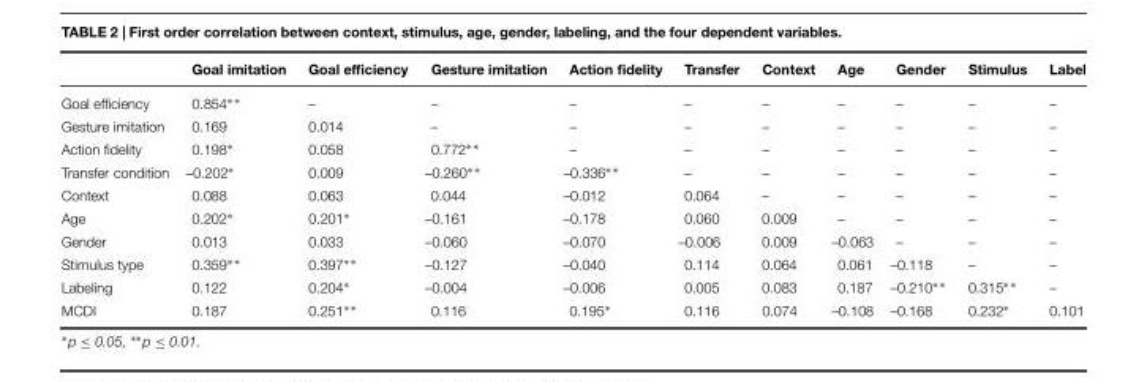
<table><thead><tr><td></td><td>Goal imitation</td><td>Goal efficiency</td><td>Gesture imitation</td><td>Action fidelity</td><td>Transfer</td><td>Context</td><td>Age</td><td>Gender</td><td>Stimulus</td><td>Label</td></tr></thead><tbody><tr><td>Goal efficiency</td><td>0.854∗∗</td><td>–</td><td>–</td><td>–</td><td>–</td><td>–</td><td>–</td><td>–</td><td>–</td><td>–</td></tr><tr><td>Gesture imitation</td><td>0.169</td><td>0.014</td><td>–</td><td>–</td><td>–</td><td>–</td><td>–</td><td>–</td><td>–</td><td>–</td></tr><tr><td>Action fidelity</td><td>0.198∗</td><td>0.058</td><td>0.772∗∗</td><td>–</td><td>–</td><td>–</td><td>–</td><td>–</td><td>–</td><td>–</td></tr><tr><td>Transfer condition</td><td>–0.202∗</td><td>0.009</td><td>–0.260∗∗</td><td>–0.336∗ ∗</td><td>–</td><td>–</td><td>–</td><td>–</td><td>–</td><td>–</td></tr><tr><td>Context</td><td>0.088</td><td>0.063</td><td>0.044</td><td>–0.012</td><td>0.064</td><td>–</td><td>–</td><td>–</td><td>–</td><td>–</td></tr><tr><td>Age</td><td>0.202∗</td><td>0.201∗</td><td>–0.161</td><td>–0.178</td><td>0.060</td><td>0.009</td><td>–</td><td>–</td><td>–</td><td>–</td></tr><tr><td>Gender</td><td>0.013</td><td>0.033</td><td>–0.060</td><td>–0.070</td><td>–0.006</td><td>0.009</td><td>–0.063</td><td>–</td><td>–</td><td>–</td></tr><tr><td>Stimulus type</td><td>0.359∗∗</td><td>0.397∗∗</td><td>–0.127</td><td>–0.040</td><td>0.114</td><td>0.064</td><td>0.061</td><td>–0.118</td><td>–</td><td>–</td></tr><tr><td>Labeling</td><td>0.122</td><td>0.204∗</td><td>–0.004</td><td>–0.006</td><td>0.005</td><td>0.083</td><td>0.187</td><td>–0.210∗ ∗</td><td>0.315∗∗</td><td>–</td></tr><tr><td>MCDI</td><td>0.187</td><td>0.251∗∗</td><td>0.116</td><td>0.195∗</td><td>0.116</td><td>0.074</td><td>–0.108</td><td>–0.168</td><td>0.232∗</td><td>0.101</td></tr></tbody></table>